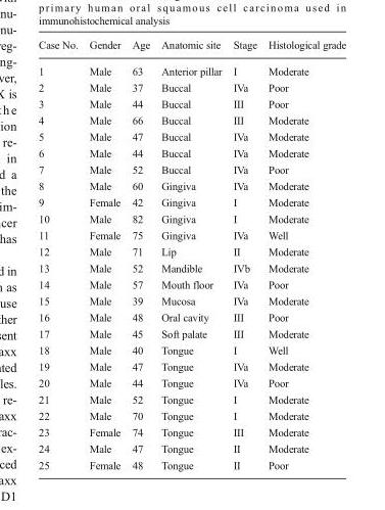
<table><thead><tr><td>Case No.</td><td>Gender</td><td>Age</td><td>Anatomic site</td><td>Stage</td><td>Histological grade</td></tr></thead><tbody><tr><td>1</td><td>Male</td><td>63</td><td>Anterior pillar</td><td>I</td><td>Moderate</td></tr><tr><td>2</td><td>Male</td><td>37</td><td>Buccal</td><td>IVa</td><td>Poor</td></tr><tr><td>3</td><td>Male</td><td>44</td><td>Buccal</td><td>III</td><td>Poor</td></tr><tr><td>4</td><td>Male</td><td>66</td><td>Buccal</td><td>III</td><td>Moderate</td></tr><tr><td>5</td><td>Male</td><td>47</td><td>Buccal</td><td>IVa</td><td>Moderate</td></tr><tr><td>6</td><td>Male</td><td>44</td><td>Buccal</td><td>IVa</td><td>Moderate</td></tr><tr><td>7</td><td>Male</td><td>52</td><td>Buccal</td><td>IVa</td><td>Poor</td></tr><tr><td>8</td><td>Male</td><td>60</td><td>Gingiva</td><td>IVa</td><td>Moderate</td></tr><tr><td>9</td><td>Female</td><td>42</td><td>Gingiva</td><td>I</td><td>Moderate</td></tr><tr><td>10</td><td>Male</td><td>82</td><td>Gingiva</td><td>I</td><td>Moderate</td></tr><tr><td>11</td><td>Female</td><td>75</td><td>Gingiva</td><td>IVa</td><td>Well</td></tr><tr><td>12</td><td>Male</td><td>71</td><td>Lip</td><td>II</td><td>Moderate</td></tr><tr><td>13</td><td>Male</td><td>52</td><td>Mandible</td><td>IVb</td><td>Moderate</td></tr><tr><td>14</td><td>Male</td><td>57</td><td>Mouth floor</td><td>IVa</td><td>Poor</td></tr><tr><td>15</td><td>Male</td><td>39</td><td>Mucosa</td><td>IVa</td><td>Moderate</td></tr><tr><td>16</td><td>Male</td><td>48</td><td>Oral cavity</td><td>III</td><td>Poor</td></tr><tr><td>17</td><td>Male</td><td>45</td><td>Soft palate</td><td>III</td><td>Moderate</td></tr><tr><td>18</td><td>Male</td><td>40</td><td>Tongue</td><td>I</td><td>Well</td></tr><tr><td>19</td><td>Male</td><td>47</td><td>Tongue</td><td>IVa</td><td>Moderate</td></tr><tr><td>20</td><td>Male</td><td>44</td><td>Tongue</td><td>IVa</td><td>Poor</td></tr><tr><td>21</td><td>Male</td><td>52</td><td>Tongue</td><td>I</td><td>Moderate</td></tr><tr><td>22</td><td>Male</td><td>70</td><td>Tongue</td><td>I</td><td>Moderate</td></tr><tr><td>23</td><td>Female</td><td>74</td><td>Tongue</td><td>III</td><td>Moderate</td></tr><tr><td>24</td><td>Male</td><td>47</td><td>Tongue</td><td>II</td><td>Moderate</td></tr><tr><td>25</td><td>Female</td><td>48</td><td>Tongue</td><td>II</td><td>Poor</td></tr></tbody></table>